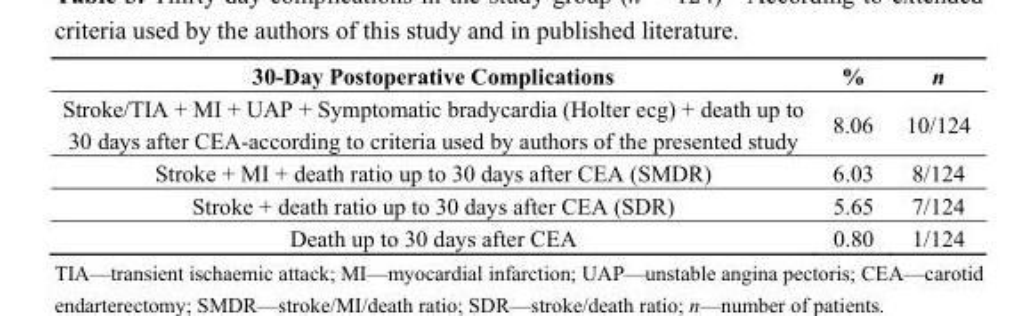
<table><thead><tr><td>30-Day Postoperative Complications</td><td>%</td><td>n</td></tr></thead><tbody><tr><td>Stroke/TIA + MI + UAP + Symptomatic bradycardia (Holter ecg) + death up to 30 days after CEA-according to criteria used by authors of the presented study</td><td>8.06</td><td>10/124</td></tr><tr><td>Stroke + MI + death ratio up to 30 days after CEA (SMDR)</td><td>6.03</td><td>8/124</td></tr><tr><td>Stroke + death ratio up to 30 days after CEA (SDR)</td><td>5.65</td><td>7/124</td></tr><tr><td>Death up to 30 days after CEA</td><td>0.80</td><td>1/124</td></tr></tbody></table>